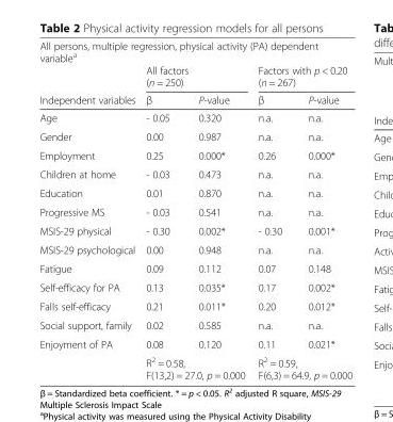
<table><thead><tr><td colspan="5">All persons, multiple regression, physical activity (PA) dependent variable<sup>a</sup></td></tr><tr><td rowspan="2">Independent variables</td><td colspan="2">All factors (n = 250)</td><td colspan="2">Factors with p &lt; 0.20 (n = 267)</td></tr><tr><td>β</td><td>P-value</td><td>β</td><td>P-value</td></tr></thead><tbody><tr><td>Age</td><td>- 0.05</td><td>0.320</td><td>n.a.</td><td>n.a.</td></tr><tr><td>Gender</td><td>0.00</td><td>0.987</td><td>n.a.</td><td>n.a.</td></tr><tr><td>Employment</td><td>0.25</td><td>0.000*</td><td>0.26</td><td>0.000*</td></tr><tr><td>Children at home</td><td>- 0.03</td><td>0.473</td><td>n.a.</td><td>n.a.</td></tr><tr><td>Education</td><td>0.01</td><td>0.870</td><td>n.a.</td><td>n.a.</td></tr><tr><td>Progressive MS</td><td>- 0.03</td><td>0.541</td><td>n.a.</td><td>n.a.</td></tr><tr><td>MSIS-29 physical</td><td>- 0.30</td><td>0.002*</td><td>- 0.30</td><td>0.001*</td></tr><tr><td>MSIS-29 psychological</td><td>0.00</td><td>0.948</td><td>n.a.</td><td>n.a.</td></tr><tr><td>Fatigue</td><td>0.09</td><td>0.112</td><td>0.07</td><td>0.148</td></tr><tr><td>Self-efficacy for PA</td><td>0.13</td><td>0.035*</td><td>0.17</td><td>0.002*</td></tr><tr><td>Falls self-efficacy</td><td>0.21</td><td>0.011*</td><td>0.20</td><td>0.012*</td></tr><tr><td>Social support, family</td><td>0.02</td><td>0.585</td><td>n.a.</td><td>n.a.</td></tr><tr><td rowspan="2">Enjoyment of PA</td><td>0.08</td><td>0.120</td><td>0.11</td><td>0.021*</td></tr><tr><td colspan="2">R<sup>2</sup> = 0.58, F(13,2) = 27.0, p = 0.000</td><td colspan="2">R<sup>2</sup> = 0.59, F(6,3) = 64.9, p = 0.000</td></tr></tbody></table>